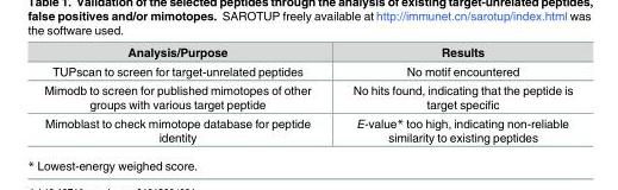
<table><thead><tr><td>Analysis/Purpose</td><td>Results</td></tr></thead><tbody><tr><td>TUPscan to screen for target-unrelated peptides</td><td>No motif encountered</td></tr><tr><td>Mimodb to screen for published mimotopes of other groups with various target peptide</td><td>No hits found, indicating that the peptide is target specific</td></tr><tr><td>Mimoblast to check mimotope database for peptide identity</td><td>E-value* too high, indicating non-reliable similarity to existing peptides</td></tr></tbody></table>